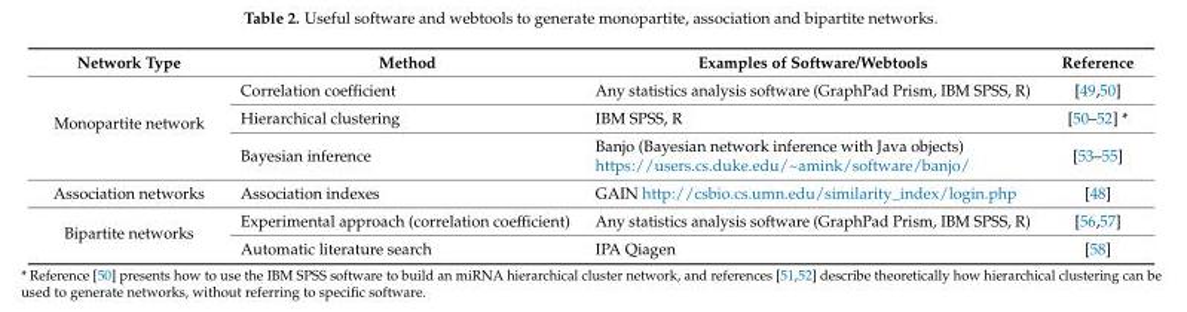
<table><thead><tr><td>Network Type</td><td>Method</td><td>Examples of Software/Webtools</td><td>Reference</td></tr></thead><tbody><tr><td rowspan="3">Monopartite network</td><td>Correlation coefficient</td><td>Any statistics analysis software (GraphPad Prism, IBM SPSS, R)</td><td>[49,50]</td></tr><tr><td>Hierarchical clustering</td><td>IBM SPSS, R</td><td>[50–52] *</td></tr><tr><td>Bayesian inference</td><td>Banjo (Bayesian network inference with Java objects) https://users.cs.duke.edu/~amink/software/banjo/</td><td>[53–55]</td></tr><tr><td>Association networks</td><td>Association indexes</td><td>GAIN http://csbio.cs.umn.edu/similarity_index/login.php</td><td>[48]</td></tr><tr><td rowspan="2">Bipartite networks</td><td>Experimental approach (correlation coefficient)</td><td>Any statistics analysis software (GraphPad Prism, IBM SPSS, R)</td><td>[56,57]</td></tr><tr><td>Automatic literature search</td><td>IPA Qiagen</td><td>[58]</td></tr></tbody></table>